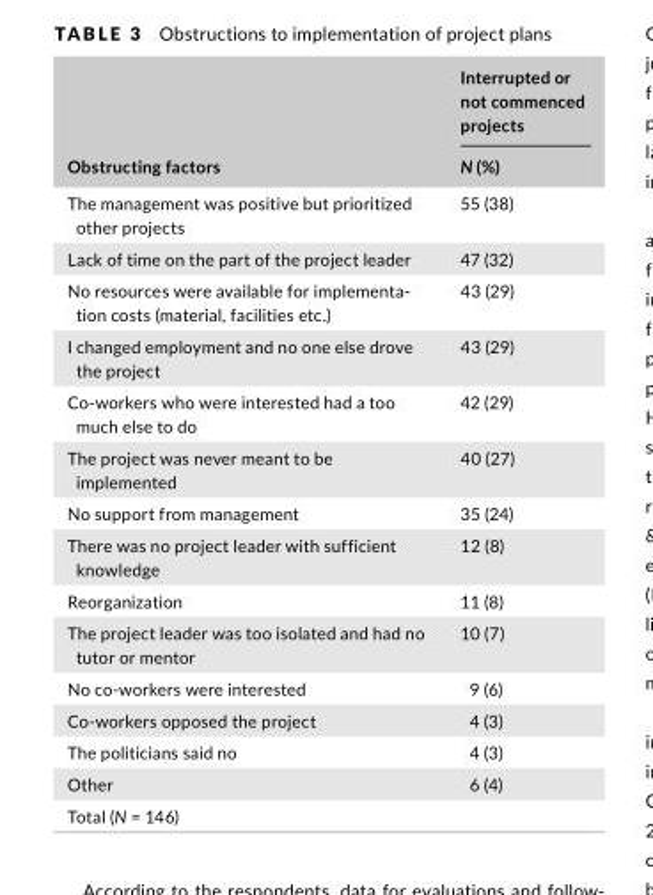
<table><thead><tr><td rowspan="2">Obstructing factors</td><td rowspan="2">Interrupted or not commenced projects N (%)</td></tr><tr></tr></thead><tbody><tr><td>The management was positive but prioritized other projects</td><td>55 (38)</td></tr><tr><td>Lack of time on the part of the project leader</td><td>47 (32)</td></tr><tr><td>No resources were available for implementa‐ tion costs (material, facilities etc.)</td><td>43 (29)</td></tr><tr><td>I changed employment and no one else drove the project</td><td>43 (29)</td></tr><tr><td>Co‐workers who were interested had a too much else to do</td><td>42 (29)</td></tr><tr><td>The project was never meant to be implemented</td><td>40 (27)</td></tr><tr><td>No support from management</td><td>35 (24)</td></tr><tr><td>There was no project leader with sufficient knowledge</td><td>12 (8)</td></tr><tr><td>Reorganization</td><td>11 (8)</td></tr><tr><td>The project leader was too isolated and had no tutor or mentor</td><td>10 (7)</td></tr><tr><td>No co‐workers were interested</td><td>9 (6)</td></tr><tr><td>Co‐workers opposed the project</td><td>4 (3)</td></tr><tr><td>The politicians said no</td><td>4 (3)</td></tr><tr><td>Other</td><td>6 (4)</td></tr><tr><td>Total (N = 146)</td><td></td></tr></tbody></table>